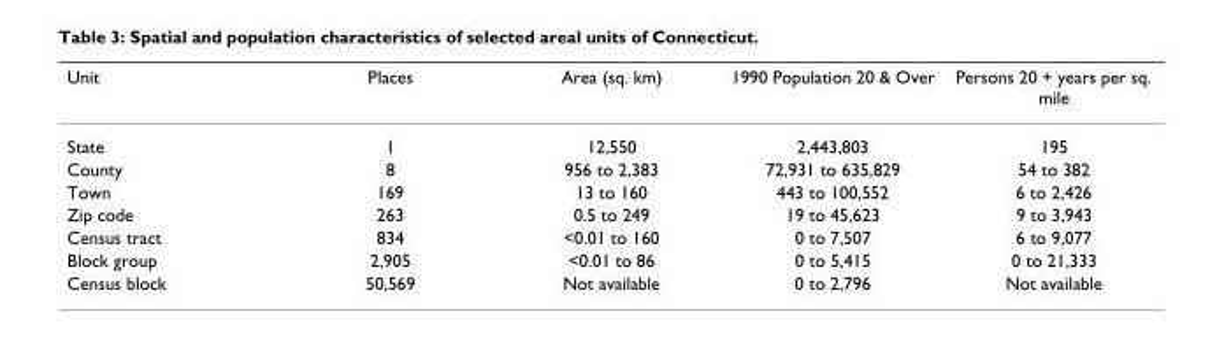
<table><thead><tr><td>Unit</td><td>Places</td><td>Area (sq. km)</td><td>1990 Population 20 &amp; Over</td><td>Persons 20 + years per sq. mile</td></tr></thead><tbody><tr><td>State</td><td>1</td><td>12,550</td><td>2,443,803</td><td>195</td></tr><tr><td>County</td><td>8</td><td>956 to 2,383</td><td>72,931 to 635,829</td><td>54 to 382</td></tr><tr><td>Town</td><td>169</td><td>13 to 160</td><td>443 to 100,552</td><td>6 to 2,426</td></tr><tr><td>Zip code</td><td>263</td><td>0.5 to 249</td><td>19 to 45,623</td><td>9 to 3,943</td></tr><tr><td>Census tract</td><td>834</td><td>&lt;0.01 to 160</td><td>0 to 7,507</td><td>6 to 9,077</td></tr><tr><td>Block group</td><td>2,905</td><td>&lt;0.01 to 86</td><td>0 to 5,415</td><td>0 to 21,333</td></tr><tr><td>Census block</td><td>50,569</td><td>Not available</td><td>0 to 2,796</td><td>Not available</td></tr></tbody></table>